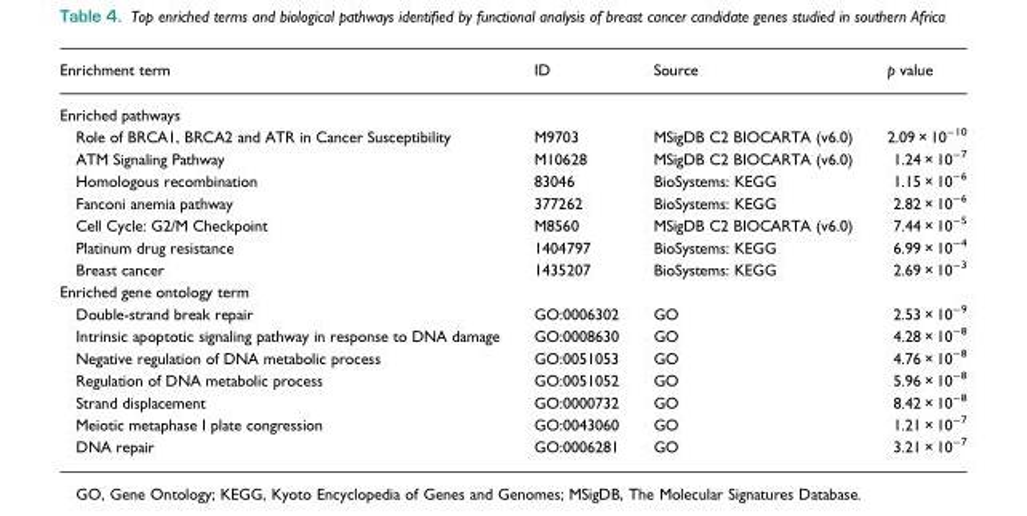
<table><thead><tr><td>Enrichment term</td><td>ID</td><td>Source</td><td>p value</td></tr></thead><tbody><tr><td colspan="4">Enriched pathways</td></tr><tr><td>Role of BRCA1, BRCA2 and ATR in Cancer Susceptibility</td><td>M9703</td><td>MSigDB C2 BIOCARTA (v6.0)</td><td>2.09 × 10<sup>−10</sup></td></tr><tr><td>ATM Signaling Pathway</td><td>M10628</td><td>MSigDB C2 BIOCARTA (v6.0)</td><td>1.24 × 10<sup>−7</sup></td></tr><tr><td>Homologous recombination</td><td>83046</td><td>BioSystems: KEGG</td><td>1.15 × 10<sup>−6</sup></td></tr><tr><td>Fanconi anemia pathway</td><td>377262</td><td>BioSystems: KEGG</td><td>2.82 × 10<sup>−6</sup></td></tr><tr><td>Cell Cycle: G2/M Checkpoint</td><td>M8560</td><td>MSigDB C2 BIOCARTA (v6.0)</td><td>7.44 × 10<sup>−5</sup></td></tr><tr><td>Platinum drug resistance</td><td>1404797</td><td>BioSystems: KEGG</td><td>6.99 × 10<sup>−4</sup></td></tr><tr><td>Breast cancer</td><td>1435207</td><td>BioSystems: KEGG</td><td>2.69 × 10<sup>−3</sup></td></tr><tr><td colspan="4">Enriched gene ontology term</td></tr><tr><td>Double-strand break repair</td><td>GO:0006302</td><td>GO</td><td>2.53 × 10<sup>−9</sup></td></tr><tr><td>Intrinsic apoptotic signaling pathway in response to DNA damage</td><td>GO:0008630</td><td>GO</td><td>4.28 × 10<sup>−8</sup></td></tr><tr><td>Negative regulation of DNA metabolic process</td><td>GO:0051053</td><td>GO</td><td>4.76 × 10<sup>−8</sup></td></tr><tr><td>Regulation of DNA metabolic process</td><td>GO:0051052</td><td>GO</td><td>5.96 × 10<sup>−8</sup></td></tr><tr><td>Strand displacement</td><td>GO:0000732</td><td>GO</td><td>8.42 × 10<sup>−8</sup></td></tr><tr><td>Meiotic metaphase I plate congression</td><td>GO:0043060</td><td>GO</td><td>1.21 × 10<sup>−7</sup></td></tr><tr><td>DNA repair</td><td>GO:0006281</td><td>GO</td><td>3.21 × 10<sup>−7</sup></td></tr></tbody></table>